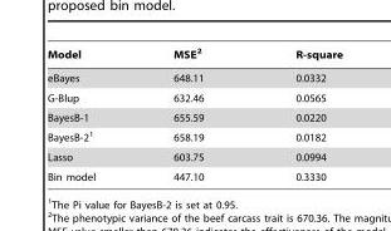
<table><thead><tr><td>Model</td><td>MSE<sup>2</sup></td><td>R-square</td></tr></thead><tbody><tr><td>eBayes</td><td>648.11</td><td>0.0332</td></tr><tr><td>G-Blup</td><td>632.46</td><td>0.0565</td></tr><tr><td>BayesB-1</td><td>655.59</td><td>0.0220</td></tr><tr><td>BayesB-2<sup>1</sup></td><td>658.19</td><td>0.0182</td></tr><tr><td>Lasso</td><td>603.75</td><td>0.0994</td></tr><tr><td>Bin model</td><td>447.10</td><td>0.3330</td></tr></tbody></table>